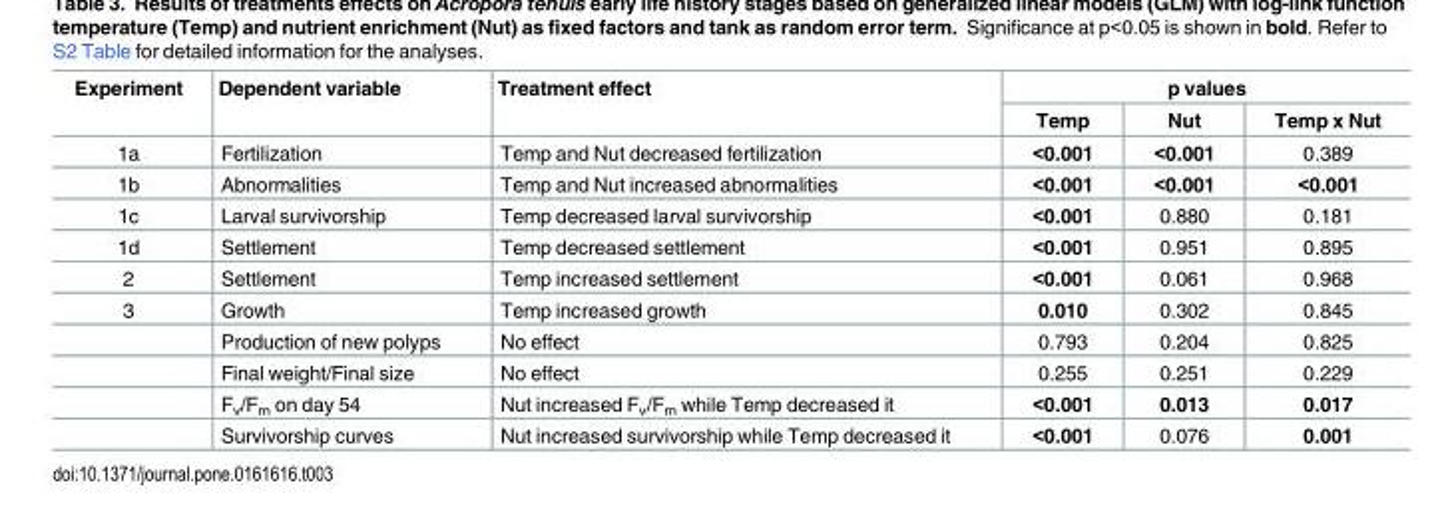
<table><thead><tr><td rowspan="2">Experiment</td><td rowspan="2">Dependent variable</td><td rowspan="2">Treatment effect</td><td colspan="3">p values</td></tr><tr><td>Temp</td><td>Nut</td><td>Temp x Nut</td></tr></thead><tbody><tr><td>1a</td><td>Fertilization</td><td>Temp and Nut decreased fertilization</td><td>&lt;0.001</td><td>&lt;0.001</td><td>0.389</td></tr><tr><td>1b</td><td>Abnormalities</td><td>Temp and Nut increased abnormalities</td><td>&lt;0.001</td><td>&lt;0.001</td><td>&lt;0.001</td></tr><tr><td>1c</td><td>Larval survivorship</td><td>Temp decreased larval survivorship</td><td>&lt;0.001</td><td>0.880</td><td>0.181</td></tr><tr><td>1d</td><td>Settlement</td><td>Temp decreased settlement</td><td>&lt;0.001</td><td>0.951</td><td>0.895</td></tr><tr><td>2</td><td>Settlement</td><td>Temp increased settlement</td><td>&lt;0.001</td><td>0.061</td><td>0.968</td></tr><tr><td rowspan="5">3</td><td>Growth</td><td>Temp increased growth</td><td>0.010</td><td>0.302</td><td>0.845</td></tr><tr><td>Production of new polyps</td><td>No effect</td><td>0.793</td><td>0.204</td><td>0.825</td></tr><tr><td>Final weight/Final size</td><td>No effect</td><td>0.255</td><td>0.251</td><td>0.229</td></tr><tr><td>F<sub>v</sub>/F<sub>m</sub> on day 54</td><td>Nut increased F<sub>v</sub>/F<sub>m</sub> while Temp decreased it</td><td>&lt;0.001</td><td>0.013</td><td>0.017</td></tr><tr><td>Survivorship curves</td><td>Nut increased survivorship while Temp decreased it</td><td>&lt;0.001</td><td>0.076</td><td>0.001</td></tr></tbody></table>